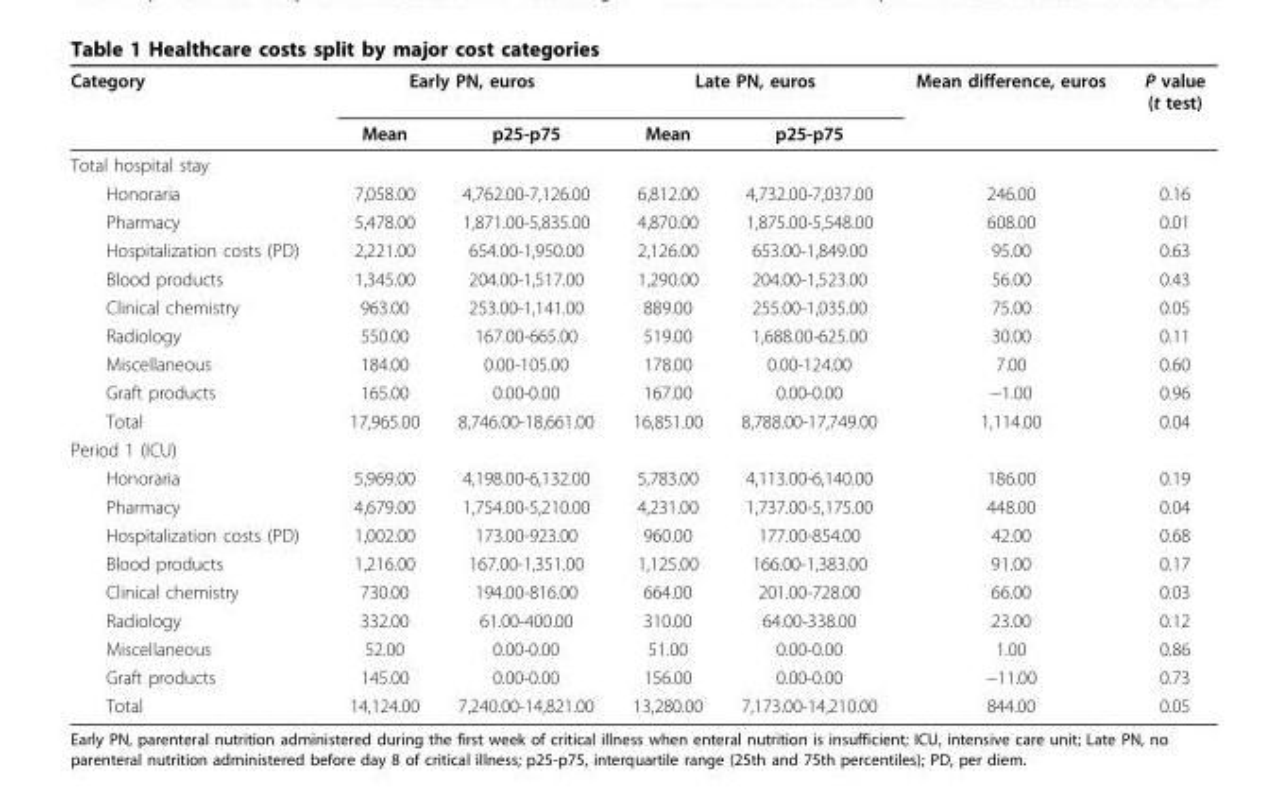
<table><thead><tr><td rowspan="2">Category</td><td colspan="2">Early PN, euros</td><td colspan="2">Late PN, euros</td><td rowspan="2">Mean difference, euros</td><td rowspan="2">P value (t test)</td></tr><tr><td>Mean</td><td>p25-p75</td><td>Mean</td><td>p25-p75</td></tr></thead><tbody><tr><td colspan="7">Total hospital stay</td></tr><tr><td>Honoraria</td><td>7,058.00</td><td>4,762.00-7,126.00</td><td>6,812.00</td><td>4,732.00-7,037.00</td><td>246.00</td><td>0.16</td></tr><tr><td>Pharmacy</td><td>5,478.00</td><td>1,871.00-5,835.00</td><td>4,870.00</td><td>1,875.00-5,548.00</td><td>608.00</td><td>0.01</td></tr><tr><td>Hospitalization costs (PD)</td><td>2,221.00</td><td>654.00-1,950.00</td><td>2,126.00</td><td>653.00-1,849.00</td><td>95.00</td><td>0.63</td></tr><tr><td>Blood products</td><td>1,345.00</td><td>204.00-1,517.00</td><td>1,290.00</td><td>204.00-1,523.00</td><td>56.00</td><td>0.43</td></tr><tr><td>Clinical chemistry</td><td>963.00</td><td>253.00-1,141.00</td><td>889.00</td><td>255.00-1,035.00</td><td>75.00</td><td>0.05</td></tr><tr><td>Radiology</td><td>550.00</td><td>167.00-665.00</td><td>519.00</td><td>1,688.00-625.00</td><td>30.00</td><td>0.11</td></tr><tr><td>Miscellaneous</td><td>184.00</td><td>0.00-105.00</td><td>178.00</td><td>0.00-124.00</td><td>7.00</td><td>0.60</td></tr><tr><td>Graft products</td><td>165.00</td><td>0.00-0.00</td><td>167.00</td><td>0.00-0.00</td><td>−1.00</td><td>0.96</td></tr><tr><td>Total</td><td>17,965.00</td><td>8,746.00-18,661.00</td><td>16,851.00</td><td>8,788.00-17,749.00</td><td>1,114.00</td><td>0.04</td></tr><tr><td colspan="7">Period 1 (ICU)</td></tr><tr><td>Honoraria</td><td>5,969.00</td><td>4,198.00-6,132.00</td><td>5,783.00</td><td>4,113.00-6,140.00</td><td>186.00</td><td>0.19</td></tr><tr><td>Pharmacy</td><td>4,679.00</td><td>1,754.00-5,210.00</td><td>4,231.00</td><td>1,737.00-5,175.00</td><td>448.00</td><td>0.04</td></tr><tr><td>Hospitalization costs (PD)</td><td>1,002.00</td><td>173.00-923.00</td><td>960.00</td><td>177.00-854.00</td><td>42.00</td><td>0.68</td></tr><tr><td>Blood products</td><td>1,216.00</td><td>167.00-1,351.00</td><td>1,125.00</td><td>166.00-1,383.00</td><td>91.00</td><td>0.17</td></tr><tr><td>Clinical chemistry</td><td>730.00</td><td>194.00-816.00</td><td>664.00</td><td>201.00-728.00</td><td>66.00</td><td>0.03</td></tr><tr><td>Radiology</td><td>332.00</td><td>61.00-400.00</td><td>310.00</td><td>64.00-338.00</td><td>23.00</td><td>0.12</td></tr><tr><td>Miscellaneous</td><td>52.00</td><td>0.00-0.00</td><td>51.00</td><td>0.00-0.00</td><td>1.00</td><td>0.86</td></tr><tr><td>Graft products</td><td>145.00</td><td>0.00-0.00</td><td>156.00</td><td>0.00-0.00</td><td>−11.00</td><td>0.73</td></tr><tr><td>Total</td><td>14,124.00</td><td>7,240.00-14,821.00</td><td>13,280.00</td><td>7,173.00-14,210.00</td><td>844.00</td><td>0.05</td></tr></tbody></table>